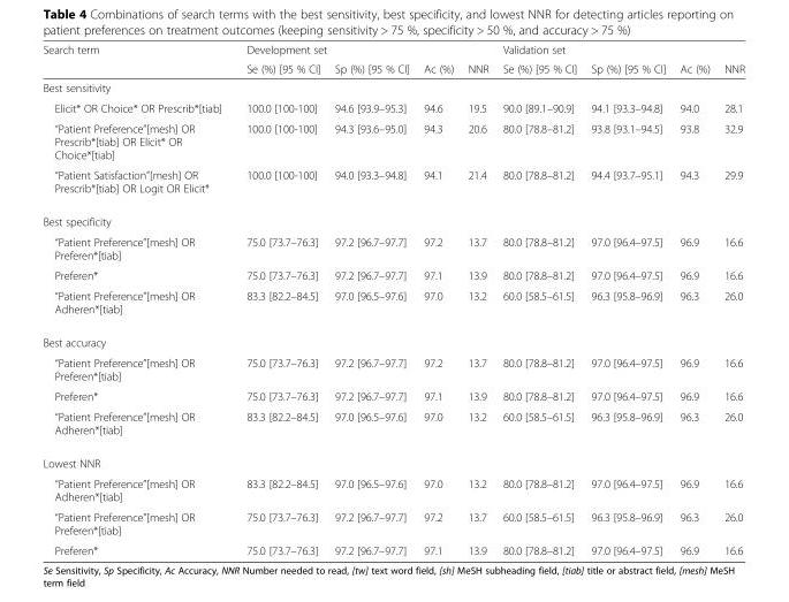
<table><thead><tr><td rowspan="2">Search term</td><td colspan="4">Development set</td><td colspan="4">Validation set</td></tr><tr><td>Se (%) [95 % CI]</td><td>Sp (%) [95 % CI]</td><td>Ac (%)</td><td>NNR</td><td>Se (%) [95 % CI]</td><td>Sp (%) [95 % CI]</td><td>Ac (%)</td><td>NNR</td></tr></thead><tbody><tr><td colspan="9">Best sensitivity</td></tr><tr><td>Elicit* OR Choice* OR Prescrib*[tiab]</td><td>100.0 [100-100]</td><td>94.6 [93.9–95.3]</td><td>94.6</td><td>19.5</td><td>90.0 [89.1–90.9]</td><td>94.1 [93.3–94.8]</td><td>94.0</td><td>28.1</td></tr><tr><td>“Patient Preference”[mesh] OR Prescrib*[tiab] OR Elicit* OR Choice*[tiab]</td><td>100.0 [100-100]</td><td>94.3 [93.6–95.0]</td><td>94.3</td><td>20.6</td><td>80.0 [78.8–81.2]</td><td>93.8 [93.1–94.5]</td><td>93.8</td><td>32.9</td></tr><tr><td>“Patient Satisfaction”[mesh] OR Prescrib*[tiab] OR Logit OR Elicit*</td><td>100.0 [100-100]</td><td>94.0 [93.3–94.8]</td><td>94.1</td><td>21.4</td><td>80.0 [78.8–81.2]</td><td>94.4 [93.7–95.1]</td><td>94.3</td><td>29.9</td></tr><tr><td colspan="9">Best specificity</td></tr><tr><td>“Patient Preference”[mesh] OR Preferen*[tiab]</td><td>75.0 [73.7–76.3]</td><td>97.2 [96.7–97.7]</td><td>97.2</td><td>13.7</td><td>80.0 [78.8–81.2]</td><td>97.0 [96.4–97.5]</td><td>96.9</td><td>16.6</td></tr><tr><td>Preferen*</td><td>75.0 [73.7–76.3]</td><td>97.2 [96.7–97.7]</td><td>97.1</td><td>13.9</td><td>80.0 [78.8–81.2]</td><td>97.0 [96.4–97.5]</td><td>96.9</td><td>16.6</td></tr><tr><td>“Patient Preference”[mesh] OR Adheren*[tiab]</td><td>83.3 [82.2–84.5]</td><td>97.0 [96.5–97.6]</td><td>97.0</td><td>13.2</td><td>60.0 [58.5–61.5]</td><td>96.3 [95.8–96.9]</td><td>96.3</td><td>26.0</td></tr><tr><td colspan="9">Best accuracy</td></tr><tr><td>“Patient Preference”[mesh] OR Preferen*[tiab]</td><td>75.0 [73.7–76.3]</td><td>97.2 [96.7–97.7]</td><td>97.2</td><td>13.7</td><td>80.0 [78.8–81.2]</td><td>97.0 [96.4–97.5]</td><td>96.9</td><td>16.6</td></tr><tr><td>Preferen*</td><td>75.0 [73.7–76.3]</td><td>97.2 [96.7–97.7]</td><td>97.1</td><td>13.9</td><td>80.0 [78.8–81.2]</td><td>97.0 [96.4–97.5]</td><td>96.9</td><td>16.6</td></tr><tr><td>“Patient Preference”[mesh] OR Adheren*[tiab]</td><td>83.3 [82.2–84.5]</td><td>97.0 [96.5–97.6]</td><td>97.0</td><td>13.2</td><td>60.0 [58.5–61.5]</td><td>96.3 [95.8–96.9]</td><td>96.3</td><td>26.0</td></tr><tr><td colspan="9">Lowest NNR</td></tr><tr><td>“Patient Preference”[mesh] OR Adheren*[tiab]</td><td>83.3 [82.2–84.5]</td><td>97.0 [96.5–97.6]</td><td>97.0</td><td>13.2</td><td>80.0 [78.8–81.2]</td><td>97.0 [96.4–97.5]</td><td>96.9</td><td>16.6</td></tr><tr><td>“Patient Preference”[mesh] OR Preferen*[tiab]</td><td>75.0 [73.7–76.3]</td><td>97.2 [96.7–97.7]</td><td>97.2</td><td>13.7</td><td>60.0 [58.5–61.5]</td><td>96.3 [95.8–96.9]</td><td>96.3</td><td>26.0</td></tr><tr><td>Preferen*</td><td>75.0 [73.7–76.3]</td><td>97.2 [96.7–97.7]</td><td>97.1</td><td>13.9</td><td>80.0 [78.8–81.2]</td><td>97.0 [96.4–97.5]</td><td>96.9</td><td>16.6</td></tr></tbody></table>